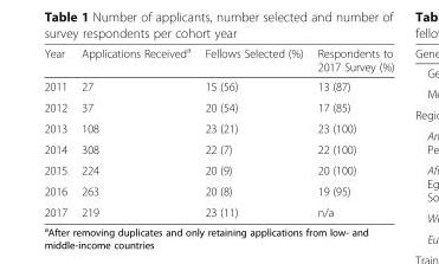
<table><thead><tr><td>Year</td><td>Applications Received<sup>a</sup></td><td>Fellows Selected (%)</td><td>Respondents to 2017 Survey (%)</td></tr></thead><tbody><tr><td>2011</td><td>27</td><td>15 (56)</td><td>13 (87)</td></tr><tr><td>2012</td><td>37</td><td>20 (54)</td><td>17 (85)</td></tr><tr><td>2013</td><td>108</td><td>23 (21)</td><td>23 (100)</td></tr><tr><td>2014</td><td>308</td><td>22 (7)</td><td>22 (100)</td></tr><tr><td>2015</td><td>224</td><td>20 (9)</td><td>20 (100)</td></tr><tr><td>2016</td><td>263</td><td>20 (8)</td><td>19 (95)</td></tr><tr><td>2017</td><td>219</td><td>23 (11)</td><td>n/a</td></tr></tbody></table>